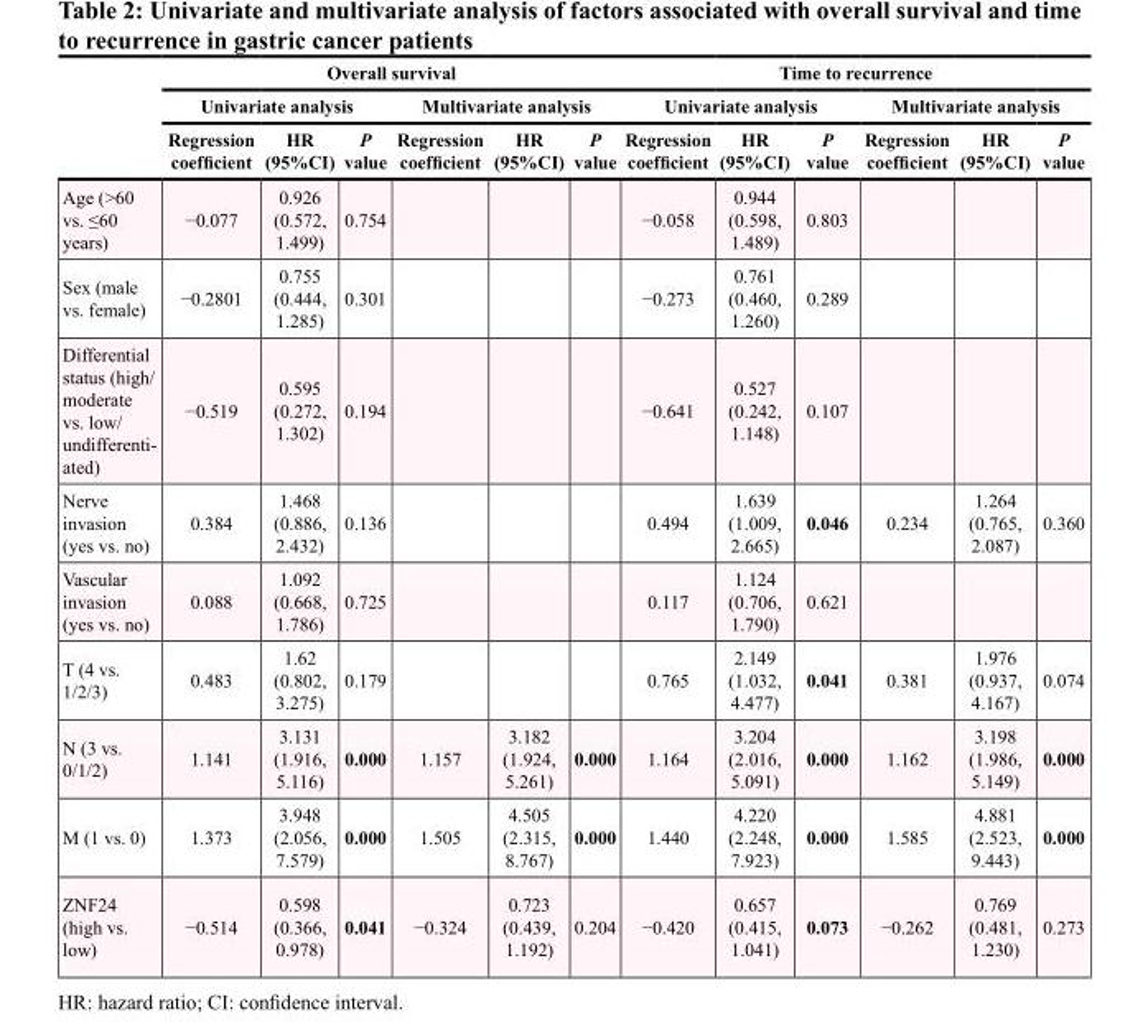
<table><thead><tr><td rowspan="3"></td><td colspan="6">Overall survival</td><td colspan="6">Time to recurrence</td></tr><tr><td colspan="3">Univariate analysis</td><td colspan="3">Multivariate analysis</td><td colspan="3">Univariate analysis</td><td colspan="3">Multivariate analysis</td></tr><tr><td>Regression coefficient</td><td>HR (95%CI)</td><td>P value</td><td>Regression coefficient</td><td>HR (95%CI)</td><td>P value</td><td>Regression coefficient</td><td>HR (95%CI)</td><td>P value</td><td>Regression coefficient</td><td>HR (95%CI)</td><td>P value</td></tr></thead><tbody><tr><td>Age (&gt;60 vs. ≤60 years)</td><td>−0.077</td><td>0.926 (0.572, 1.499)</td><td>0.754</td><td></td><td></td><td></td><td>−0.058</td><td>0.944 (0.598, 1.489)</td><td>0.803</td><td></td><td></td><td></td></tr><tr><td>Sex (male vs. female)</td><td>−0.2801</td><td>0.755 (0.444, 1.285)</td><td>0.301</td><td></td><td></td><td></td><td>−0.273</td><td>0.761 (0.460, 1.260)</td><td>0.289</td><td></td><td></td><td></td></tr><tr><td>Differential status (high/ moderate vs. low/ undifferenti- ated)</td><td>−0.519</td><td>0.595 (0.272, 1.302)</td><td>0.194</td><td></td><td></td><td></td><td>−0.641</td><td>0.527 (0.242, 1.148)</td><td>0.107</td><td></td><td></td><td></td></tr><tr><td>Nerve invasion (yes vs. no)</td><td>0.384</td><td>1.468 (0.886, 2.432)</td><td>0.136</td><td></td><td></td><td></td><td>0.494</td><td>1.639 (1.009, 2.665)</td><td>0.046</td><td>0.234</td><td>1.264 (0.765, 2.087)</td><td>0.360</td></tr><tr><td>Vascular invasion (yes vs. no)</td><td>0.088</td><td>1.092 (0.668, 1.786)</td><td>0.725</td><td></td><td></td><td></td><td>0.117</td><td>1.124 (0.706, 1.790)</td><td>0.621</td><td></td><td></td><td></td></tr><tr><td>T (4 vs. 1/2/3)</td><td>0.483</td><td>1.62 (0.802, 3.275)</td><td>0.179</td><td></td><td></td><td></td><td>0.765</td><td>2.149 (1.032, 4.477)</td><td>0.041</td><td>0.381</td><td>1.976 (0.937, 4.167)</td><td>0.074</td></tr><tr><td>N (3 vs. 0/1/2)</td><td>1.141</td><td>3.131 (1.916, 5.116)</td><td>0.000</td><td>1.157</td><td>3.182 (1.924, 5.261)</td><td>0.000</td><td>1.164</td><td>3.204 (2.016, 5.091)</td><td>0.000</td><td>1.162</td><td>3.198 (1.986, 5.149)</td><td>0.000</td></tr><tr><td>M (1 vs. 0)</td><td>1.373</td><td>3.948 (2.056, 7.579)</td><td>0.000</td><td>1.505</td><td>4.505 (2.315, 8.767)</td><td>0.000</td><td>1.440</td><td>4.220 (2.248, 7.923)</td><td>0.000</td><td>1.585</td><td>4.881 (2.523, 9.443)</td><td>0.000</td></tr><tr><td>ZNF24 (high vs. low)</td><td>−0.514</td><td>0.598 (0.366, 0.978)</td><td>0.041</td><td>−0.324</td><td>0.723 (0.439, 1.192)</td><td>0.204</td><td>−0.420</td><td>0.657 (0.415, 1.041)</td><td>0.073</td><td>−0.262</td><td>0.769 (0.481, 1.230)</td><td>0.273</td></tr></tbody></table>